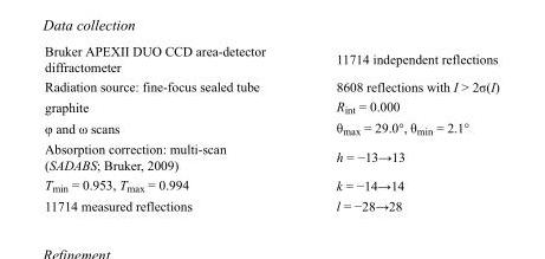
<table><tbody><tr><td>Bruker APEXII DUO CCD area-detector diffractometer</td><td>11714 independent reflections</td></tr><tr><td>Radiation source: fine-focus sealed tube</td><td>8608 reflections with I &gt; 2σ(I)</td></tr><tr><td>graphite</td><td>R<sub>int</sub> = 0.000</td></tr><tr><td>φ and ω scans</td><td>θ<sub>max</sub> = 29.0°, θ<sub>min</sub> = 2.1°</td></tr><tr><td>Absorption correction: multi-scan (SADABS; Bruker, 2009)</td><td>h = −13→13</td></tr><tr><td>T<sub>min</sub> = 0.953, T<sub>max</sub> = 0.994</td><td>k = −14→14</td></tr><tr><td>11714 measured reflections</td><td>l = −28→28</td></tr></tbody></table>